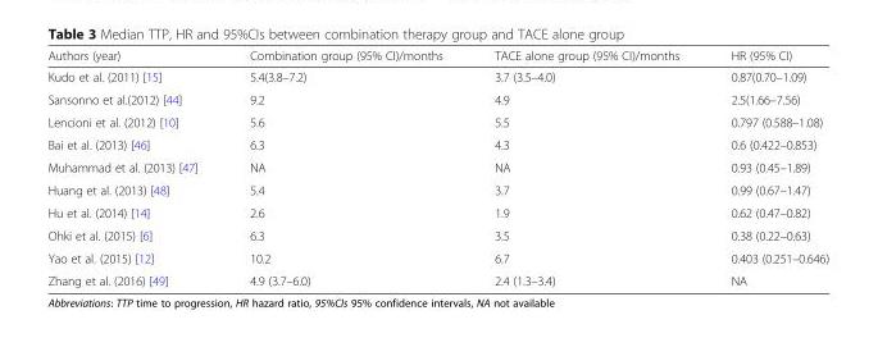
<table><thead><tr><td>Authors (year)</td><td>Combination group (95% CI)/months</td><td>TACE alone group (95% CI)/months</td><td>HR (95% CI)</td></tr></thead><tbody><tr><td>Kudo et al. (2011) [15]</td><td>5.4(3.8–7.2)</td><td>3.7 (3.5–4.0)</td><td>0.87(0.70–1.09)</td></tr><tr><td>Sansonno et al.(2012) [44]</td><td>9.2</td><td>4.9</td><td>2.5(1.66–7.56)</td></tr><tr><td>Lencioni et al. (2012) [10]</td><td>5.6</td><td>5.5</td><td>0.797 (0.588–1.08)</td></tr><tr><td>Bai et al. (2013) [46]</td><td>6.3</td><td>4.3</td><td>0.6 (0.422–0.853)</td></tr><tr><td>Muhammad et al. (2013) [47]</td><td>NA</td><td>NA</td><td>0.93 (0.45–1.89)</td></tr><tr><td>Huang et al. (2013) [48]</td><td>5.4</td><td>3.7</td><td>0.99 (0.67–1.47)</td></tr><tr><td>Hu et al. (2014) [14]</td><td>2.6</td><td>1.9</td><td>0.62 (0.47–0.82)</td></tr><tr><td>Ohki et al. (2015) [6]</td><td>6.3</td><td>3.5</td><td>0.38 (0.22–0.63)</td></tr><tr><td>Yao et al. (2015) [12]</td><td>10.2</td><td>6.7</td><td>0.403 (0.251–0.646)</td></tr><tr><td>Zhang et al. (2016) [49]</td><td>4.9 (3.7–6.0)</td><td>2.4 (1.3–3.4)</td><td>NA</td></tr></tbody></table>